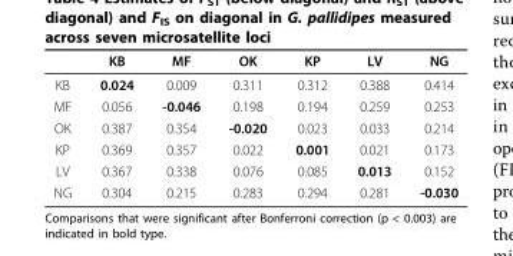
<table><thead><tr><td></td><td>KB</td><td>MF</td><td>OK</td><td>KP</td><td>LV</td><td>NG</td></tr></thead><tbody><tr><td>KB</td><td>0.024</td><td>0.009</td><td>0.311</td><td>0.312</td><td>0.388</td><td>0.414</td></tr><tr><td>MF</td><td>0.056</td><td>-0.046</td><td>0.198</td><td>0.194</td><td>0.259</td><td>0.253</td></tr><tr><td>OK</td><td>0.387</td><td>0.354</td><td>-0.020</td><td>0.023</td><td>0.033</td><td>0.214</td></tr><tr><td>KP</td><td>0.369</td><td>0.357</td><td>0.022</td><td>0.001</td><td>0.021</td><td>0.173</td></tr><tr><td>LV</td><td>0.367</td><td>0.338</td><td>0.076</td><td>0.085</td><td>0.013</td><td>0.152</td></tr><tr><td>NG</td><td>0.304</td><td>0.215</td><td>0.283</td><td>0.294</td><td>0.281</td><td>-0.030</td></tr></tbody></table>